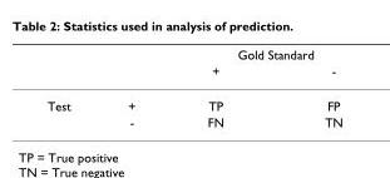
<table><thead><tr><td rowspan="2"></td><td rowspan="2"></td><td colspan="2">Gold Standard</td></tr><tr><td>+</td><td>-</td></tr></thead><tbody><tr><td rowspan="2">Test</td><td>+</td><td>TP</td><td>FP</td></tr><tr><td>-</td><td>FN</td><td>TN</td></tr></tbody></table>